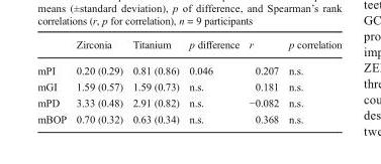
<table><thead><tr><td></td><td>Zirconia</td><td>Titanium</td><td>p difference</td><td>r</td><td>p correlation</td></tr></thead><tbody><tr><td>mPI</td><td>0.20 (0.29)</td><td>0.81 (0.86)</td><td>0.046</td><td>0.207</td><td>n.s.</td></tr><tr><td>mGI</td><td>1.59 (0.57)</td><td>1.59 (0.73)</td><td>n.s.</td><td>0.181</td><td>n.s.</td></tr><tr><td>mPD</td><td>3.33 (0.48)</td><td>2.91 (0.82)</td><td>n.s.</td><td>−0.082</td><td>n.s.</td></tr><tr><td>mBOP</td><td>0.70 (0.32)</td><td>0.63 (0.34)</td><td>n.s.</td><td>0.368</td><td>n.s.</td></tr></tbody></table>